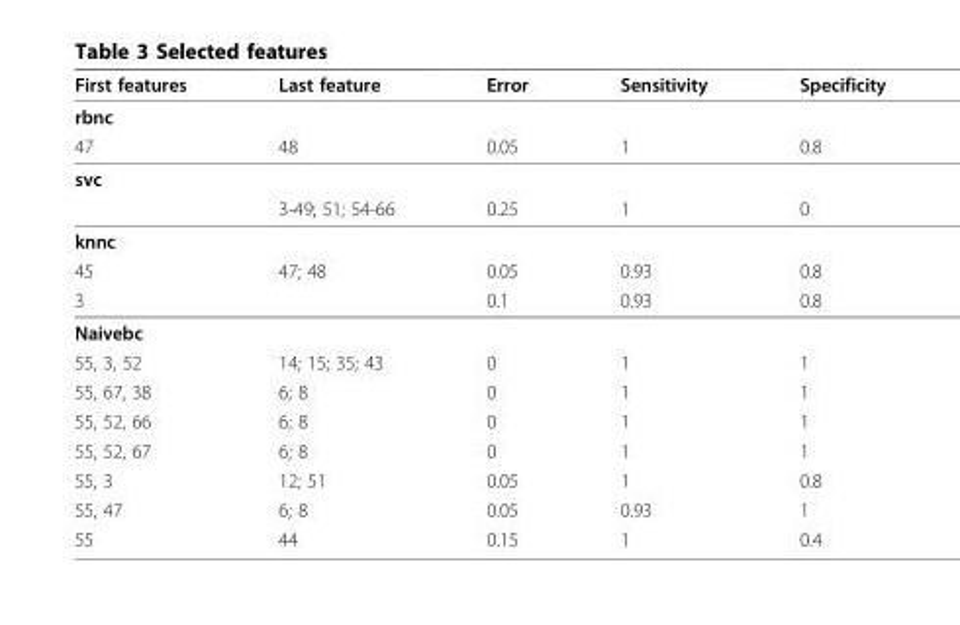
<table><thead><tr><td>First features</td><td>Last feature</td><td>Error</td><td>Sensitivity</td><td>Specificity</td></tr></thead><tbody><tr><td colspan="5">rbnc</td></tr><tr><td>47</td><td>48</td><td>0.05</td><td>1</td><td>0.8</td></tr><tr><td colspan="5">svc</td></tr><tr><td></td><td>3-49; 51; 54-66</td><td>0.25</td><td>1</td><td>0</td></tr><tr><td colspan="5">knnc</td></tr><tr><td>45</td><td>47; 48</td><td>0.05</td><td>0.93</td><td>0.8</td></tr><tr><td>3</td><td></td><td>0.1</td><td>0.93</td><td>0.8</td></tr><tr><td colspan="5">Naivebc</td></tr><tr><td>55, 3, 52</td><td>14; 15; 35; 43</td><td>0</td><td>1</td><td>1</td></tr><tr><td>55, 67, 38</td><td>6; 8</td><td>0</td><td>1</td><td>1</td></tr><tr><td>55, 52, 66</td><td>6; 8</td><td>0</td><td>1</td><td>1</td></tr><tr><td>55, 52, 67</td><td>6; 8</td><td>0</td><td>1</td><td>1</td></tr><tr><td>55, 3</td><td>12; 51</td><td>0.05</td><td>1</td><td>0.8</td></tr><tr><td>55, 47</td><td>6; 8</td><td>0.05</td><td>0.93</td><td>1</td></tr><tr><td>55</td><td>44</td><td>0.15</td><td>1</td><td>0.4</td></tr></tbody></table>